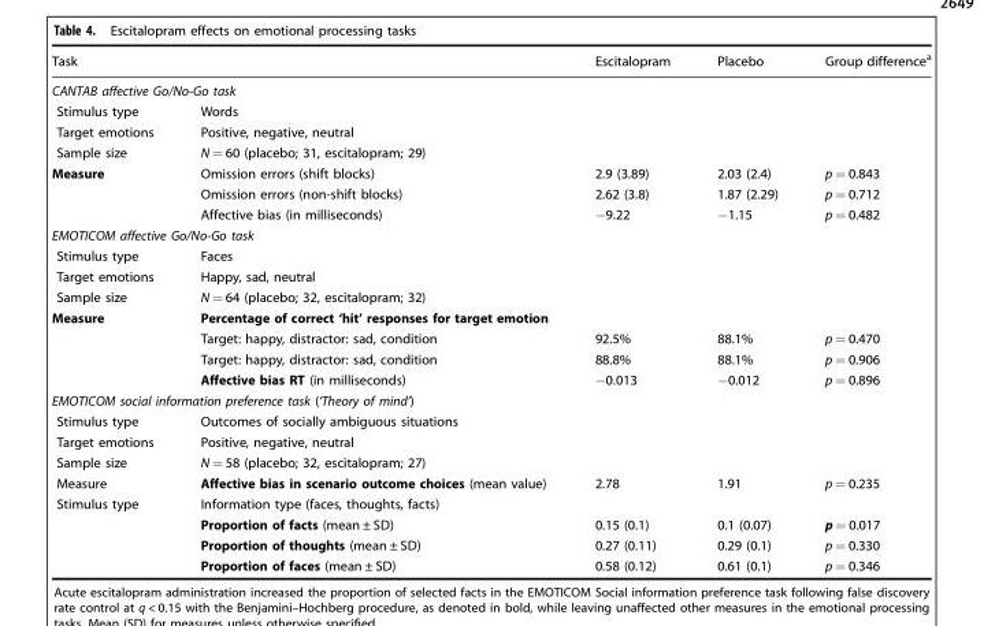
<table><thead><tr><td>Task</td><td></td><td>Escitalopram</td><td>Placebo</td><td>Group difference<sup>a</sup></td></tr></thead><tbody><tr><td colspan="5">CANTAB affective Go/No-Go task</td></tr><tr><td>Stimulus type</td><td>Words</td><td></td><td></td><td></td></tr><tr><td>Target emotions</td><td>Positive, negative, neutral</td><td></td><td></td><td></td></tr><tr><td>Sample size</td><td>N = 60 (placebo; 31, escitalopram; 29)</td><td></td><td></td><td></td></tr><tr><td rowspan="3">Measure</td><td>Omission errors (shift blocks)</td><td>2.9 (3.89)</td><td>2.03 (2.4)</td><td>p = 0.843</td></tr><tr><td>Omission errors (non-shift blocks)</td><td>2.62 (3.8)</td><td>1.87 (2.29)</td><td>p = 0.712</td></tr><tr><td>Affective bias (in milliseconds)</td><td>−9.22</td><td>−1.15</td><td>p = 0.482</td></tr><tr><td colspan="5">EMOTICOM affective Go/No-Go task</td></tr><tr><td>Stimulus type</td><td>Faces</td><td></td><td></td><td></td></tr><tr><td>Target emotions</td><td>Happy, sad, neutral</td><td></td><td></td><td></td></tr><tr><td>Sample size</td><td>N = 64 (placebo; 32, escitalopram; 32)</td><td></td><td></td><td></td></tr><tr><td rowspan="4">Measure</td><td>Percentage of correct ‘hit’ responses for target emotion</td><td></td><td></td><td></td></tr><tr><td>Target: happy, distractor: sad, condition</td><td>92.5%</td><td>88.1%</td><td>p = 0.470</td></tr><tr><td>Target: happy, distractor: sad, condition</td><td>88.8%</td><td>88.1%</td><td>p = 0.906</td></tr><tr><td>Affective bias RT (in milliseconds)</td><td>−0.013</td><td>−0.012</td><td>p = 0.896</td></tr><tr><td colspan="5">EMOTICOM social information preference task (‘Theory of mind’)</td></tr><tr><td>Stimulus type</td><td>Outcomes of socially ambiguous situations</td><td></td><td></td><td></td></tr><tr><td>Target emotions</td><td>Positive, negative, neutral</td><td></td><td></td><td></td></tr><tr><td>Sample size</td><td>N = 58 (placebo; 32, escitalopram; 27)</td><td></td><td></td><td></td></tr><tr><td>Measure</td><td>Affective bias in scenario outcome choices (mean value)</td><td>2.78</td><td>1.91</td><td>p = 0.235</td></tr><tr><td rowspan="4">Stimulus type</td><td>Information type (faces, thoughts, facts)</td><td></td><td></td><td></td></tr><tr><td>Proportion of facts (mean ± SD)</td><td>0.15 (0.1)</td><td>0.1 (0.07)</td><td>p = 0.017</td></tr><tr><td>Proportion of thoughts (mean ± SD)</td><td>0.27 (0.11)</td><td>0.29 (0.1)</td><td>p = 0.330</td></tr><tr><td>Proportion of faces (mean ± SD)</td><td>0.58 (0.12)</td><td>0.61 (0.1)</td><td>p = 0.346</td></tr></tbody></table>